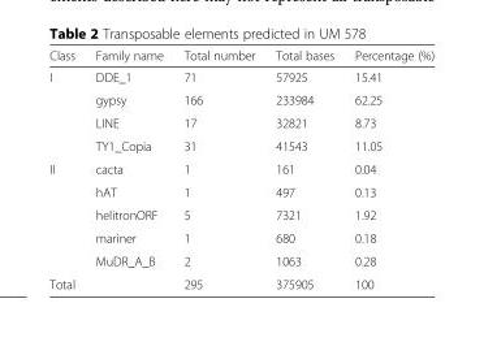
<table><thead><tr><td>Class</td><td>Family name</td><td>Total number</td><td>Total bases</td><td>Percentage (%)</td></tr></thead><tbody><tr><td rowspan="4">I</td><td>DDE_1</td><td>71</td><td>57925</td><td>15.41</td></tr><tr><td>gypsy</td><td>166</td><td>233984</td><td>62.25</td></tr><tr><td>LINE</td><td>17</td><td>32821</td><td>8.73</td></tr><tr><td>TY1_Copia</td><td>31</td><td>41543</td><td>11.05</td></tr><tr><td rowspan="5">II</td><td>cacta</td><td>1</td><td>161</td><td>0.04</td></tr><tr><td>hAT</td><td>1</td><td>497</td><td>0.13</td></tr><tr><td>helitronORF</td><td>5</td><td>7321</td><td>1.92</td></tr><tr><td>mariner</td><td>1</td><td>680</td><td>0.18</td></tr><tr><td>MuDR_A_B</td><td>2</td><td>1063</td><td>0.28</td></tr><tr><td>Total</td><td></td><td>295</td><td>375905</td><td>100</td></tr></tbody></table>